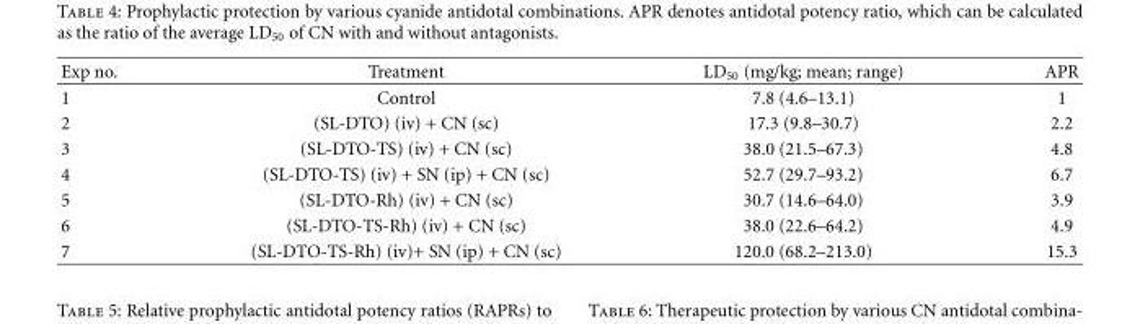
<table><thead><tr><td>Exp no.</td><td>Treatment</td><td>LD<sub>50</sub> (mg/kg; mean; range)</td><td>APR</td></tr></thead><tbody><tr><td>1</td><td>Control</td><td>7.8 (4.6–13.1)</td><td>1</td></tr><tr><td>2</td><td>(SL-DTO) (iv) + CN (sc)</td><td>17.3 (9.8–30.7)</td><td>2.2</td></tr><tr><td>3</td><td>(SL-DTO-TS) (iv) + CN (sc)</td><td>38.0 (21.5–67.3)</td><td>4.8</td></tr><tr><td>4</td><td>(SL-DTO-TS) (iv) + SN (ip) + CN (sc)</td><td>52.7 (29.7–93.2)</td><td>6.7</td></tr><tr><td>5</td><td>(SL-DTO-Rh) (iv) + CN (sc)</td><td>30.7 (14.6–64.0)</td><td>3.9</td></tr><tr><td>6</td><td>(SL-DTO-TS-Rh) (iv) + CN (sc)</td><td>38.0 (22.6–64.2)</td><td>4.9</td></tr><tr><td>7</td><td>(SL-DTO-TS-Rh) (iv)+ SN (ip) + CN (sc)</td><td>120.0 (68.2–213.0)</td><td>15.3</td></tr></tbody></table>